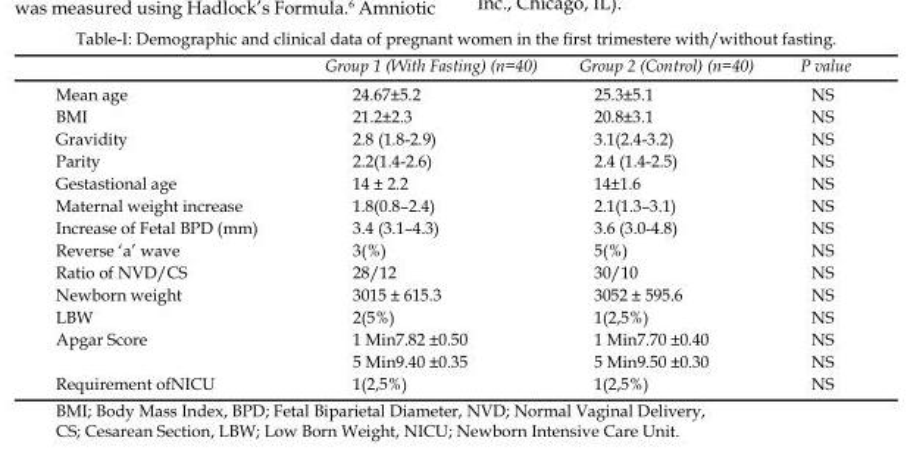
<table><thead><tr><td></td><td>Group 1 (With Fasting) (n=40)</td><td>Group 2 (Control) (n=40)</td><td>P value</td></tr></thead><tbody><tr><td>Mean age</td><td>24.67±5.2</td><td>25.3±5.1</td><td>NS</td></tr><tr><td>BMI</td><td>21.2±2.3</td><td>20.8±3.1</td><td>NS</td></tr><tr><td>Gravidity</td><td>2.8 (1.8-2.9)</td><td>3.1(2.4-3.2)</td><td>NS</td></tr><tr><td>Parity</td><td>2.2(1.4-2.6)</td><td>2.4 (1.4-2.5)</td><td>NS</td></tr><tr><td>Gestastional age</td><td>14 ± 2.2</td><td>14±1.6</td><td>NS</td></tr><tr><td>Maternal weight increase</td><td>1.8(0.8–2.4)</td><td>2.1(1.3–3.1)</td><td>NS</td></tr><tr><td>Increase of Fetal BPD (mm)</td><td>3.4 (3.1–4.3)</td><td>3.6 (3.0-4.8)</td><td>NS</td></tr><tr><td>Reverse ‘a’ wave</td><td>3(%)</td><td>5(%)</td><td>NS</td></tr><tr><td>Ratio of NVD/CS</td><td>28/12</td><td>30/10</td><td>NS</td></tr><tr><td>Newborn weight</td><td>3015 ± 615.3</td><td>3052 ± 595.6</td><td>NS</td></tr><tr><td>LBW</td><td>2(5%)</td><td>1(2,5%)</td><td>NS</td></tr><tr><td rowspan="2">Apgar Score</td><td>1 Min7.82 ±0.50</td><td>1 Min7.70 ±0.40</td><td>NS</td></tr><tr><td>5 Min9.40 ±0.35</td><td>5 Min9.50 ±0.30</td><td>NS</td></tr><tr><td>Requirement ofNICU</td><td>1(2,5%)</td><td>1(2,5%)</td><td>NS</td></tr></tbody></table>